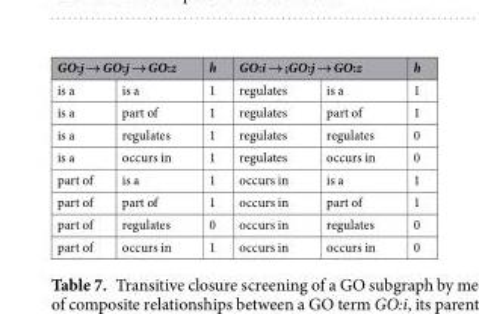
<table><thead><tr><td colspan="2">GO:j → GO:j → GO:z</td><td rowspan="2">h 1</td><td colspan="2">GO:i → ;GO:j → GO:z</td><td rowspan="2">h 1</td></tr><tr><td>is a</td><td>is a</td><td>regulates</td><td>is a</td></tr></thead><tbody><tr><td>is a</td><td>part of</td><td>1</td><td>regulates</td><td>part of</td><td>1</td></tr><tr><td>is a</td><td>regulates</td><td>1</td><td>regulates</td><td>regulates</td><td>0</td></tr><tr><td>is a</td><td>occurs in</td><td>1</td><td>regulates</td><td>occurs in</td><td>0</td></tr><tr><td>part of</td><td>is a</td><td>1</td><td>occurs in</td><td>is a</td><td>1</td></tr><tr><td>part of</td><td>part of</td><td>1</td><td>occurs in</td><td>part of</td><td>1</td></tr><tr><td>part of</td><td>regulates</td><td>0</td><td>occurs in</td><td>regulates</td><td>0</td></tr><tr><td>part of</td><td>occurs in</td><td>1</td><td>occurs in</td><td>occurs in</td><td>0</td></tr></tbody></table>